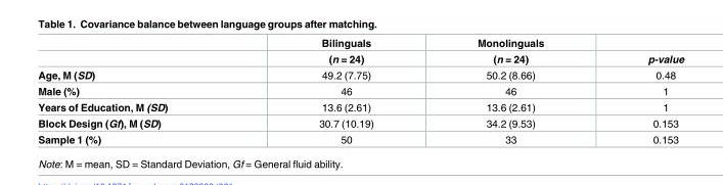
<table><thead><tr><td rowspan="2"></td><td rowspan="2">Bilinguals (n = 24)</td><td rowspan="2">Monolinguals (n = 24)</td><td rowspan="2">p-value</td></tr><tr></tr></thead><tbody><tr><td>Age, M (SD)</td><td>49.2 (7.75)</td><td>50.2 (8.66)</td><td>0.48</td></tr><tr><td>Male (%)</td><td>46</td><td>46</td><td>1</td></tr><tr><td>Years of Education, M (SD)</td><td>13.6 (2.61)</td><td>13.6 (2.61)</td><td>1</td></tr><tr><td>Block Design (Gf), M (SD)</td><td>30.7 (10.19)</td><td>34.2 (9.53)</td><td>0.153</td></tr><tr><td>Sample 1 (%)</td><td>50</td><td>33</td><td>0.153</td></tr></tbody></table>